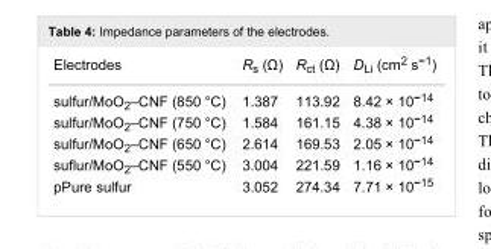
<table><tbody><tr><td>Electrodes</td><td>R<sub>s</sub> (Ω)</td><td>R<sub>ct</sub> (Ω)</td><td>D<sub>Li</sub> (cm<sup>2</sup> s<sup>−1</sup>)</td></tr><tr><td>sulfur/MoO<sub>2</sub>–CNF (850 °C)</td><td>1.387</td><td>113.92</td><td>8.42 × 10<sup>−14</sup></td></tr><tr><td>sulfur/MoO<sub>2</sub>–CNF (750 °C)</td><td>1.584</td><td>161.15</td><td>4.38 × 10<sup>−14</sup></td></tr><tr><td>sulfur/MoO<sub>2</sub>–CNF (650 °C)</td><td>2.614</td><td>169.53</td><td>2.05 × 10<sup>−14</sup></td></tr><tr><td>suflur/MoO<sub>2</sub>–CNF (550 °C)</td><td>3.004</td><td>221.59</td><td>1.16 × 10<sup>−14</sup></td></tr><tr><td>pPure sulfur</td><td>3.052</td><td>274.34</td><td>7.71 × 10<sup>−15</sup></td></tr></tbody></table>